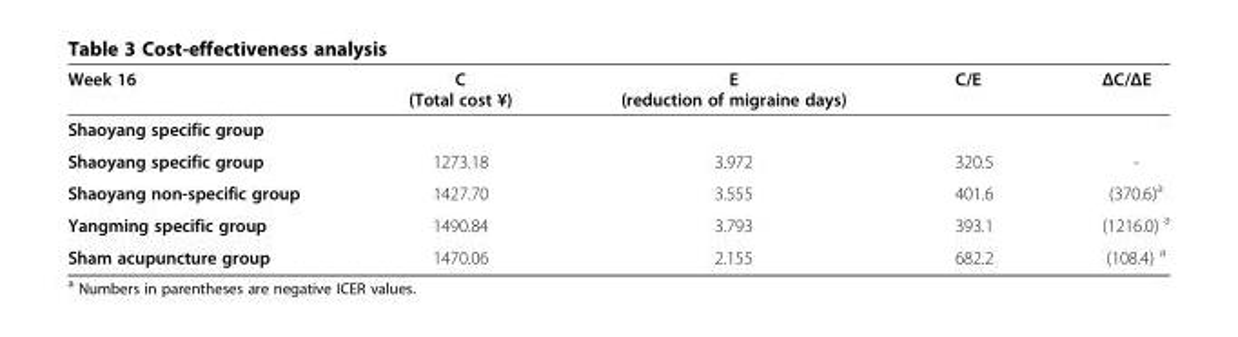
<table><thead><tr><td>Week 16</td><td>C (Total cost ¥)</td><td>E (reduction of migraine days)</td><td>C/E</td><td>ΔC/ΔE</td></tr></thead><tbody><tr><td colspan="5">Shaoyang specific group</td></tr><tr><td>Shaoyang specific group</td><td>1273.18</td><td>3.972</td><td>320.5</td><td>-</td></tr><tr><td>Shaoyang non-specific group</td><td>1427.70</td><td>3.555</td><td>401.6</td><td>(370.6)<sup>a</sup></td></tr><tr><td>Yangming specific group</td><td>1490.84</td><td>3.793</td><td>393.1</td><td>(1216.0) <sup>a</sup></td></tr><tr><td>Sham acupuncture group</td><td>1470.06</td><td>2.155</td><td>682.2</td><td>(108.4) <sup>a</sup></td></tr></tbody></table>